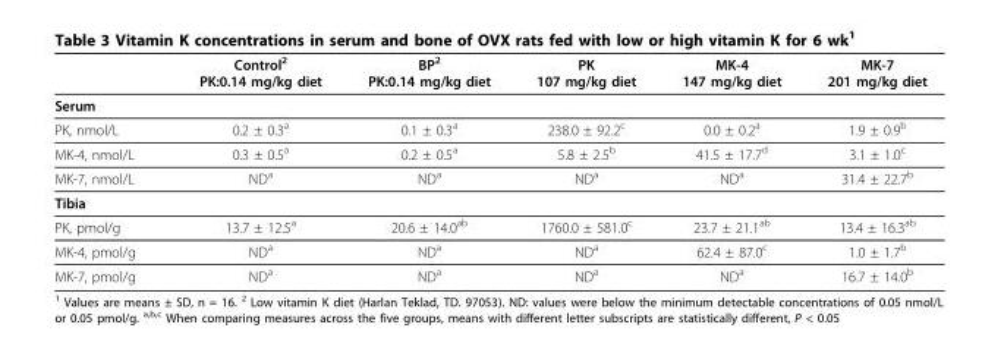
<table><thead><tr><td></td><td>Control<sup>2</sup> PK:0.14 mg/kg diet</td><td>BP<sup>2</sup> PK:0.14 mg/kg diet</td><td>PK 107 mg/kg diet</td><td>MK-4 147 mg/kg diet</td><td>MK-7 201 mg/kg diet</td></tr></thead><tbody><tr><td colspan="6">Serum</td></tr><tr><td>PK, nmol/L</td><td>0.2 ± 0.3<sup>a</sup></td><td>0.1 ± 0.3<sup>a</sup></td><td>238.0 ± 92.2<sup>c</sup></td><td>0.0 ± 0.2<sup>a</sup></td><td>1.9 ± 0.9<sup>b</sup></td></tr><tr><td>MK-4, nmol/L</td><td>0.3 ± 0.5<sup>a</sup></td><td>0.2 ± 0.5<sup>a</sup></td><td>5.8 ± 2.5<sup>b</sup></td><td>41.5 ± 17.7<sup>d</sup></td><td>3.1 ± 1.0<sup>c</sup></td></tr><tr><td>MK-7, nmol/L</td><td>ND<sup>a</sup></td><td>ND<sup>a</sup></td><td>ND<sup>a</sup></td><td>ND<sup>a</sup></td><td>31.4 ± 22.7<sup>b</sup></td></tr><tr><td colspan="6">Tibia</td></tr><tr><td>PK, pmol/g</td><td>13.7 ± 12.5<sup>a</sup></td><td>20.6 ± 14.0<sup>ab</sup></td><td>1760.0 ± 581.0<sup>c</sup></td><td>23.7 ± 21.1<sup>ab</sup></td><td>13.4 ± 16.3<sup>ab</sup></td></tr><tr><td>MK-4, pmol/g</td><td>ND<sup>a</sup></td><td>ND<sup>a</sup></td><td>ND<sup>a</sup></td><td>62.4 ± 87.0<sup>c</sup></td><td>1.0 ± 1.7<sup>b</sup></td></tr><tr><td>MK-7, pmol/g</td><td>ND<sup>a</sup></td><td>ND<sup>a</sup></td><td>ND<sup>a</sup></td><td>ND<sup>a</sup></td><td>16.7 ± 14.0<sup>b</sup></td></tr></tbody></table>